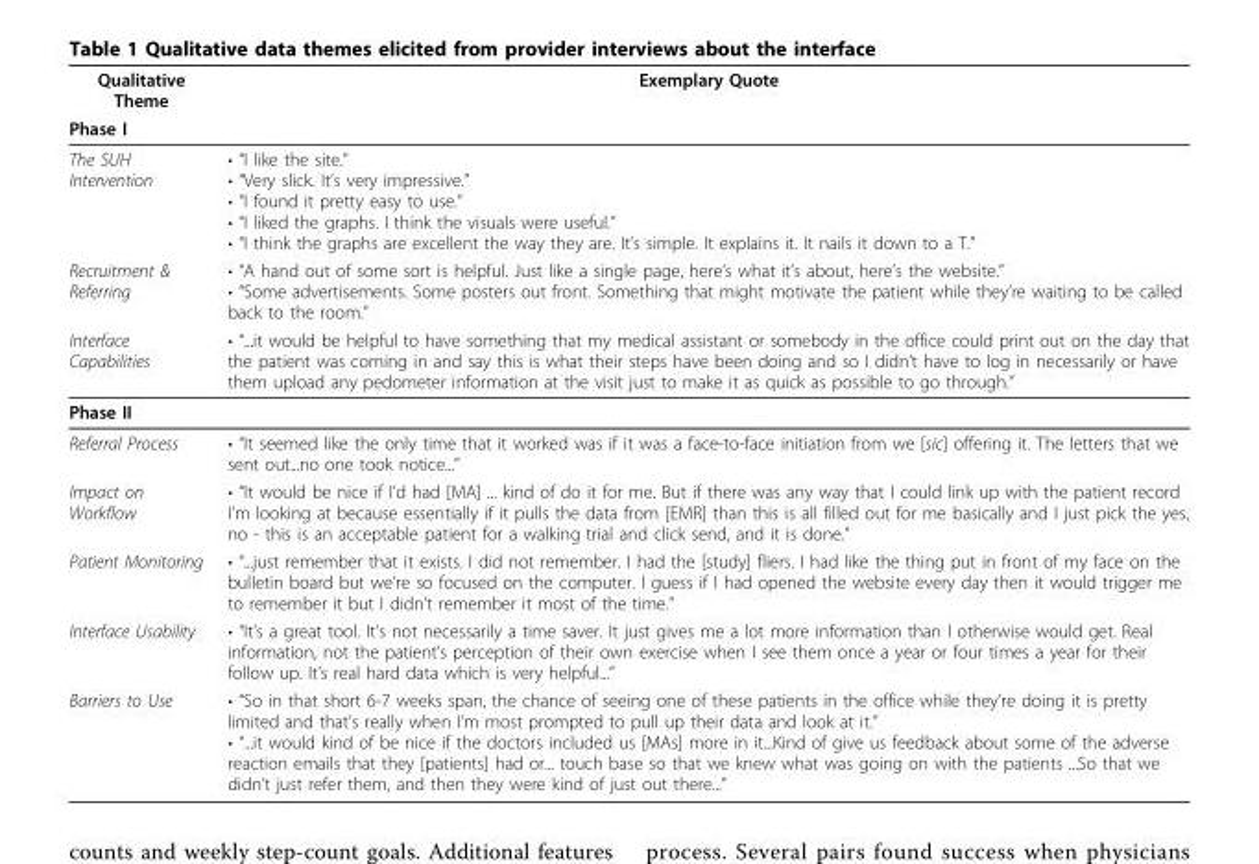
<table><thead><tr><td rowspan="2">Qualitative Theme Phase I</td><td rowspan="2">Exemplary Quote</td></tr><tr></tr></thead><tbody><tr><td>The SUH Intervention</td><td>• “I like the site.” • “Very slick. It’s very impressive.” • “I found it pretty easy to use.” • “I liked the graphs. I think the visuals were useful.” • “I think the graphs are excellent the way they are. It’s simple. It explains it. It nails it down to a T.”</td></tr><tr><td>Recruitment &amp; Referring</td><td>• “A hand out of some sort is helpful. Just like a single page, here’s what it’s about, here’s the website.” • “Some advertisements. Some posters out front. Something that might motivate the patient while they’re waiting to be called back to the room.”</td></tr><tr><td>Interface Capabilities</td><td>• “...it would be helpful to have something that my medical assistant or somebody in the office could print out on the day that the patient was coming in and say this is what their steps have been doing and so I didn’t have to log in necessarily or have them upload any pedometer information at the visit just to make it as quick as possible to go through.”</td></tr><tr><td colspan="2">Phase II</td></tr><tr><td>Referral Process</td><td>• “It seemed like the only time that it worked was if it was a face-to-face initiation from we [sic] offering it. The letters that we sent out...no one took notice...”</td></tr><tr><td>Impact on Workflow</td><td>• “It would be nice if I’d had [MA] ... kind of do it for me. But if there was any way that I could link up with the patient record I’m looking at because essentially if it pulls the data from [EMR] than this is all filled out for me basically and I just pick the yes, no - this is an acceptable patient for a walking trial and click send, and it is done.”</td></tr><tr><td>Patient Monitoring</td><td>• “...just remember that it exists. I did not remember. I had the [study] fliers. I had like the thing put in front of my face on the bulletin board but we’re so focused on the computer. I guess if I had opened the website every day then it would trigger me to remember it but I didn’t remember it most of the time.”</td></tr><tr><td>Interface Usability</td><td>• “It’s a great tool. It’s not necessarily a time saver. It just gives me a lot more information than I otherwise would get. Real information, not the patient’s perception of their own exercise when I see them once a year or four times a year for their follow up. It’s real hard data which is very helpful...”</td></tr><tr><td>Barriers to Use</td><td>• “So in that short 6-7 weeks span, the chance of seeing one of these patients in the office while they’re doing it is pretty limited and that’s really when I’m most prompted to pull up their data and look at it.” • “...it would kind of be nice if the doctors included us [MAs] more in it...Kind of give us feedback about some of the adverse reaction emails that they [patients] had or... touch base so that we knew what was going on with the patients ...So that we didn’t just refer them, and then they were kind of just out there...”</td></tr></tbody></table>